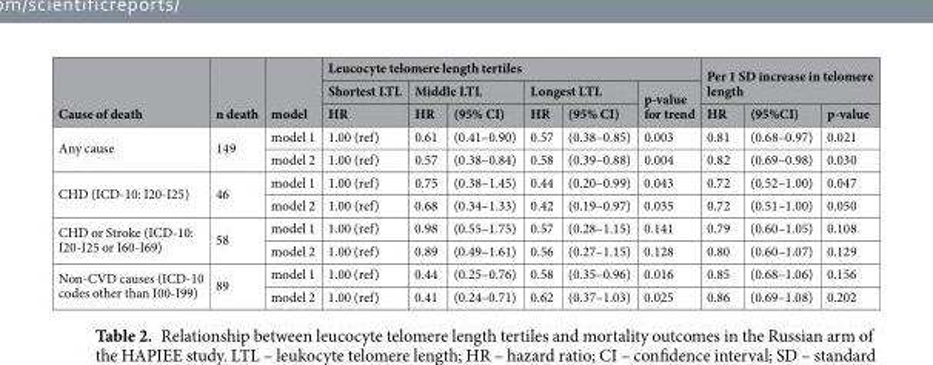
<table><thead><tr><td rowspan="3">Cause of death</td><td rowspan="3">n death</td><td rowspan="3">model</td><td colspan="6">Leucocyte telomere length tertiles</td><td rowspan="2" colspan="3">Per 1 SD increase in telomere length</td></tr><tr><td rowspan="2">Shortest LTL HR</td><td colspan="2">Middle LTL</td><td colspan="2">Longest LTL</td><td rowspan="2">p-value for trend</td></tr><tr><td>HR</td><td>(95% CI)</td><td>HR</td><td>(95% CI)</td><td>HR</td><td>(95%CI)</td><td>p-value</td></tr></thead><tbody><tr><td rowspan="2">Any cause</td><td rowspan="2">149</td><td>model 1</td><td>1.00 (ref)</td><td>0.61</td><td>(0.41–0.90)</td><td>0.57</td><td>(0.38–0.85)</td><td>0.003</td><td>0.81</td><td>(0.68–0.97)</td><td>0.021</td></tr><tr><td>model 2</td><td>1.00 (ref)</td><td>0.57</td><td>(0.38–0.84)</td><td>0.58</td><td>(0.39–0.88)</td><td>0.004</td><td>0.82</td><td>(0.69–0.98)</td><td>0.030</td></tr><tr><td rowspan="2">CHD (ICD-10: I20-I25)</td><td rowspan="2">46</td><td>model 1</td><td>1.00 (ref)</td><td>0.75</td><td>(0.38–1.45)</td><td>0.44</td><td>(0.20–0.99)</td><td>0.043</td><td>0.72</td><td>(0.52–1.00)</td><td>0.047</td></tr><tr><td>model 2</td><td>1.00 (ref)</td><td>0.68</td><td>(0.34–1.33)</td><td>0.42</td><td>(0.19–0.97)</td><td>0.035</td><td>0.72</td><td>(0.51–1.00)</td><td>0.050</td></tr><tr><td rowspan="2">CHD or Stroke (ICD-10: I20-I25 or I60-I69)</td><td rowspan="2">58</td><td>model 1</td><td>1.00 (ref)</td><td>0.98</td><td>(0.55–1.75)</td><td>0.57</td><td>(0.28–1.15)</td><td>0.141</td><td>0.79</td><td>(0.60–1.05)</td><td>0.108</td></tr><tr><td>model 2</td><td>1.00 (ref)</td><td>0.89</td><td>(0.49–1.61)</td><td>0.56</td><td>(0.27–1.15)</td><td>0.128</td><td>0.80</td><td>(0.60–1.07)</td><td>0.129</td></tr><tr><td rowspan="2">Non-CVD causes (ICD-10 codes other than I00-I99)</td><td rowspan="2">89</td><td>model 1</td><td>1.00 (ref)</td><td>0.44</td><td>(0.25–0.76)</td><td>0.58</td><td>(0.35–0.96)</td><td>0.016</td><td>0.85</td><td>(0.68–1.06)</td><td>0.156</td></tr><tr><td>model 2</td><td>1.00 (ref)</td><td>0.41</td><td>(0.24–0.71)</td><td>0.62</td><td>(0.37–1.03)</td><td>0.025</td><td>0.86</td><td>(0.69–1.08)</td><td>0.202</td></tr></tbody></table>